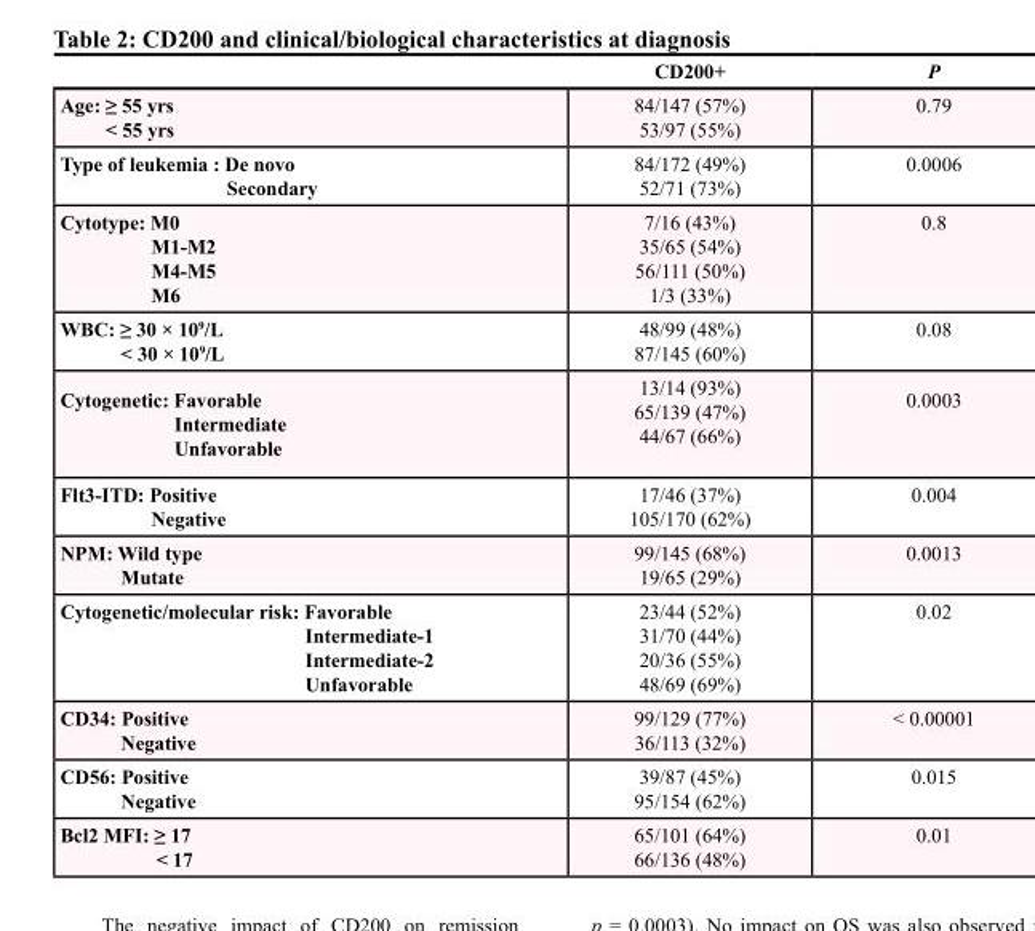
<table><thead><tr><td></td><td>CD200+</td><td>P</td></tr></thead><tbody><tr><td>Age: ≥ 55 yrs &lt; 55 yrs</td><td>84/147 (57%) 53/97 (55%)</td><td>0.79</td></tr><tr><td>Type of leukemia : De novo Secondary</td><td>84/172 (49%) 52/71 (73%)</td><td>0.0006</td></tr><tr><td>Cytotype: M0 M1-M2 M4-M5 M6</td><td>7/16 (43%) 35/65 (54%) 56/111 (50%) 1/3 (33%)</td><td>0.8</td></tr><tr><td>WBC: ≥ 30 × 10<sup>9</sup>/L &lt; 30 × 10<sup>9</sup>/L</td><td>48/99 (48%) 87/145 (60%)</td><td>0.08</td></tr><tr><td>Cytogenetic: Favorable Intermediate Unfavorable</td><td>13/14 (93%) 65/139 (47%) 44/67 (66%)</td><td>0.0003</td></tr><tr><td>Flt3-ITD: Positive Negative</td><td>17/46 (37%) 105/170 (62%)</td><td>0.004</td></tr><tr><td>NPM: Wild type Mutate</td><td>99/145 (68%) 19/65 (29%)</td><td>0.0013</td></tr><tr><td>Cytogenetic/molecular risk: Favorable Intermediate-1 Intermediate-2 Unfavorable</td><td>23/44 (52%) 31/70 (44%) 20/36 (55%) 48/69 (69%)</td><td>0.02</td></tr><tr><td>CD34: Positive Negative</td><td>99/129 (77%) 36/113 (32%)</td><td>&lt; 0.00001</td></tr><tr><td>CD56: Positive Negative</td><td>39/87 (45%) 95/154 (62%)</td><td>0.015</td></tr><tr><td>Bcl2 MFI: ≥ 17 &lt; 17</td><td>65/101 (64%) 66/136 (48%)</td><td>0.01</td></tr></tbody></table>